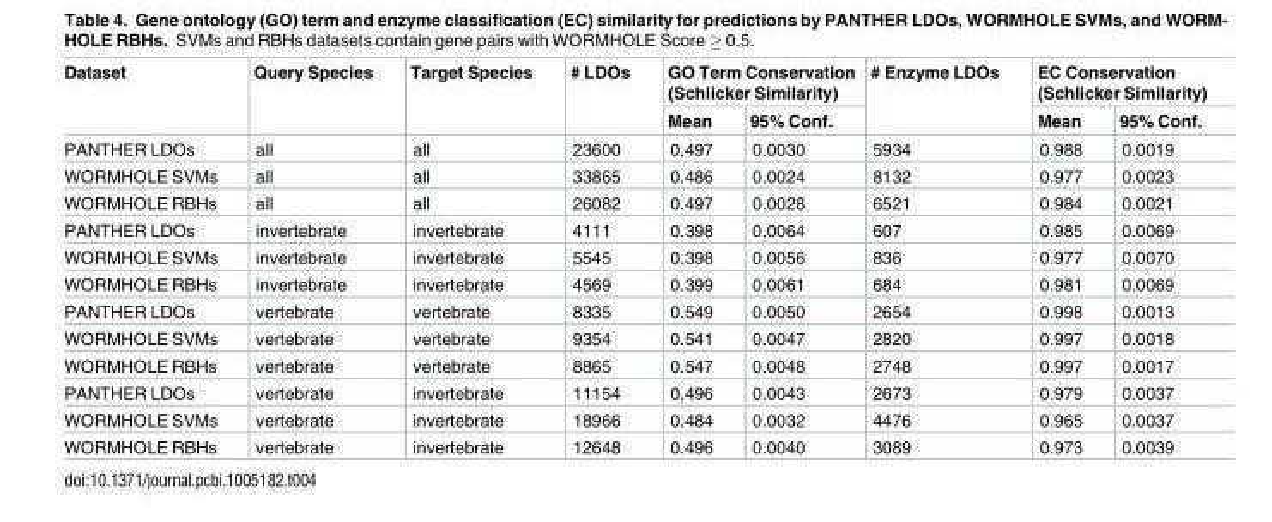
<table><thead><tr><td rowspan="2">Dataset</td><td rowspan="2">Query Species</td><td rowspan="2">Target Species</td><td rowspan="2"># LDOs</td><td colspan="2">GO Term Conservation (Schlicker Similarity)</td><td rowspan="2"># Enzyme LDOs</td><td colspan="2">EC Conservation (Schlicker Similarity)</td></tr><tr><td>Mean</td><td>95% Conf.</td><td>Mean</td><td>95% Conf.</td></tr></thead><tbody><tr><td>PANTHER LDOs</td><td>all</td><td>all</td><td>23600</td><td>0.497</td><td>0.0030</td><td>5934</td><td>0.988</td><td>0.0019</td></tr><tr><td>WORMHOLE SVMs</td><td>all</td><td>all</td><td>33865</td><td>0.486</td><td>0.0024</td><td>8132</td><td>0.977</td><td>0.0023</td></tr><tr><td>WORMHOLE RBHs</td><td>all</td><td>all</td><td>26082</td><td>0.497</td><td>0.0028</td><td>6521</td><td>0.984</td><td>0.0021</td></tr><tr><td>PANTHER LDOs</td><td>invertebrate</td><td>invertebrate</td><td>4111</td><td>0.398</td><td>0.0064</td><td>607</td><td>0.985</td><td>0.0069</td></tr><tr><td>WORMHOLE SVMs</td><td>invertebrate</td><td>invertebrate</td><td>5545</td><td>0.398</td><td>0.0056</td><td>836</td><td>0.977</td><td>0.0070</td></tr><tr><td>WORMHOLE RBHs</td><td>invertebrate</td><td>invertebrate</td><td>4569</td><td>0.399</td><td>0.0061</td><td>684</td><td>0.981</td><td>0.0069</td></tr><tr><td>PANTHER LDOs</td><td>vertebrate</td><td>vertebrate</td><td>8335</td><td>0.549</td><td>0.0050</td><td>2654</td><td>0.998</td><td>0.0013</td></tr><tr><td>WORMHOLE SVMs</td><td>vertebrate</td><td>vertebrate</td><td>9354</td><td>0.541</td><td>0.0047</td><td>2820</td><td>0.997</td><td>0.0018</td></tr><tr><td>WORMHOLE RBHs</td><td>vertebrate</td><td>vertebrate</td><td>8865</td><td>0.547</td><td>0.0048</td><td>2748</td><td>0.997</td><td>0.0017</td></tr><tr><td>PANTHER LDOs</td><td>vertebrate</td><td>invertebrate</td><td>11154</td><td>0.496</td><td>0.0043</td><td>2673</td><td>0.979</td><td>0.0037</td></tr><tr><td>WORMHOLE SVMs</td><td>vertebrate</td><td>invertebrate</td><td>18966</td><td>0.484</td><td>0.0032</td><td>4476</td><td>0.965</td><td>0.0037</td></tr><tr><td>WORMHOLE RBHs</td><td>vertebrate</td><td>invertebrate</td><td>12648</td><td>0.496</td><td>0.0040</td><td>3089</td><td>0.973</td><td>0.0039</td></tr></tbody></table>